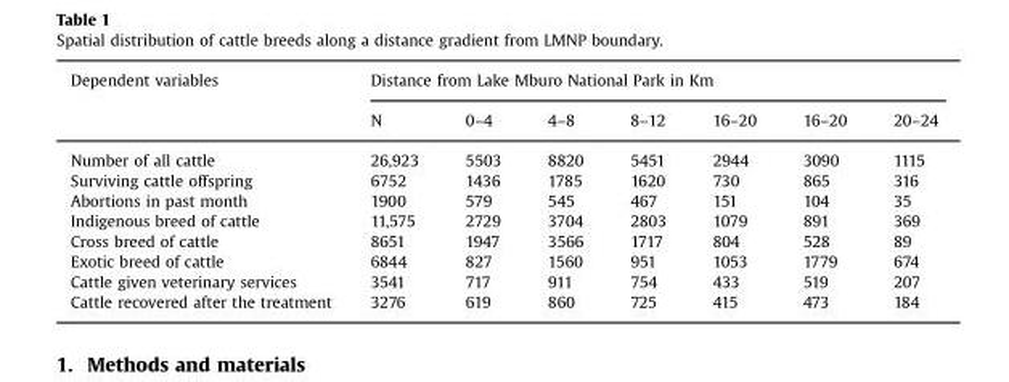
<table><thead><tr><td rowspan="2">Dependent variables</td><td colspan="7">Distance from Lake Mburo National Park in Km</td></tr><tr><td>N</td><td>0–4</td><td>4–8</td><td>8–12</td><td>16–20</td><td>16–20</td><td>20–24</td></tr></thead><tbody><tr><td>Number of all cattle</td><td>26,923</td><td>5503</td><td>8820</td><td>5451</td><td>2944</td><td>3090</td><td>1115</td></tr><tr><td>Surviving cattle offspring</td><td>6752</td><td>1436</td><td>1785</td><td>1620</td><td>730</td><td>865</td><td>316</td></tr><tr><td>Abortions in past month</td><td>1900</td><td>579</td><td>545</td><td>467</td><td>151</td><td>104</td><td>35</td></tr><tr><td>Indigenous breed of cattle</td><td>11,575</td><td>2729</td><td>3704</td><td>2803</td><td>1079</td><td>891</td><td>369</td></tr><tr><td>Cross breed of cattle</td><td>8651</td><td>1947</td><td>3566</td><td>1717</td><td>804</td><td>528</td><td>89</td></tr><tr><td>Exotic breed of cattle</td><td>6844</td><td>827</td><td>1560</td><td>951</td><td>1053</td><td>1779</td><td>674</td></tr><tr><td>Cattle given veterinary services</td><td>3541</td><td>717</td><td>911</td><td>754</td><td>433</td><td>519</td><td>207</td></tr><tr><td>Cattle recovered after the treatment</td><td>3276</td><td>619</td><td>860</td><td>725</td><td>415</td><td>473</td><td>184</td></tr></tbody></table>